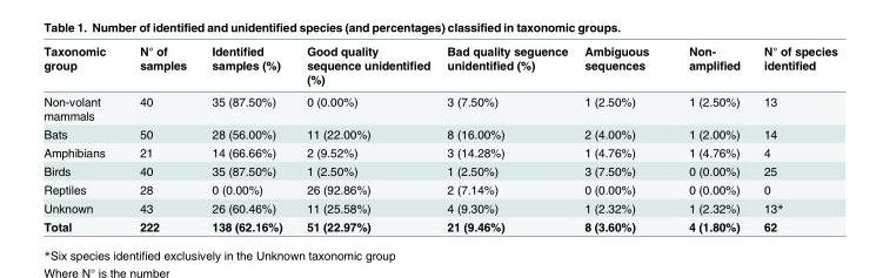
<table><thead><tr><td>Taxonomic group</td><td>N° of samples</td><td>Identified samples (%)</td><td>Good quality sequence unidentified (%)</td><td>Bad quality seguence unidentified (%)</td><td>Ambiguous sequences</td><td>Non- amplified</td><td>N° of species identified</td></tr></thead><tbody><tr><td>Non-volant mammals</td><td>40</td><td>35 (87.50%)</td><td>0 (0.00%)</td><td>3 (7.50%)</td><td>1 (2.50%)</td><td>1 (2.50%)</td><td>13</td></tr><tr><td>Bats</td><td>50</td><td>28 (56.00%)</td><td>11 (22.00%)</td><td>8 (16.00%)</td><td>2 (4.00%)</td><td>1 (2.00%)</td><td>14</td></tr><tr><td>Amphibians</td><td>21</td><td>14 (66.66%)</td><td>2 (9.52%)</td><td>3 (14.28%)</td><td>1 (4.76%)</td><td>1 (4.76%)</td><td>4</td></tr><tr><td>Birds</td><td>40</td><td>35 (87.50%)</td><td>1 (2.50%)</td><td>1 (2.50%)</td><td>3 (7.50%)</td><td>0 (0.00%)</td><td>25</td></tr><tr><td>Reptiles</td><td>28</td><td>0 (0.00%)</td><td>26 (92.86%)</td><td>2 (7.14%)</td><td>0 (0.00%)</td><td>0 (0.00%)</td><td>0</td></tr><tr><td>Unknown</td><td>43</td><td>26 (60.46%)</td><td>11 (25.58%)</td><td>4 (9.30%)</td><td>1 (2.32%)</td><td>1 (2.32%)</td><td>13*</td></tr><tr><td>Total</td><td>222</td><td>138 (62.16%)</td><td>51 (22.97%)</td><td>21 (9.46%)</td><td>8 (3.60%)</td><td>4 (1.80%)</td><td>62</td></tr></tbody></table>